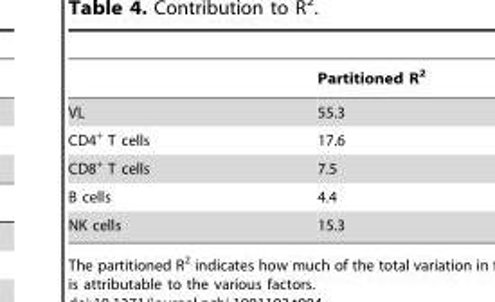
<table><thead><tr><td></td><td>Partitioned R<sup>2</sup></td></tr></thead><tbody><tr><td>VL</td><td>55.3</td></tr><tr><td>CD4<sup>+</sup> T cells</td><td>17.6</td></tr><tr><td>CD8<sup>+</sup> T cells</td><td>7.5</td></tr><tr><td>B cells</td><td>4.4</td></tr><tr><td>NK cells</td><td>15.3</td></tr></tbody></table>